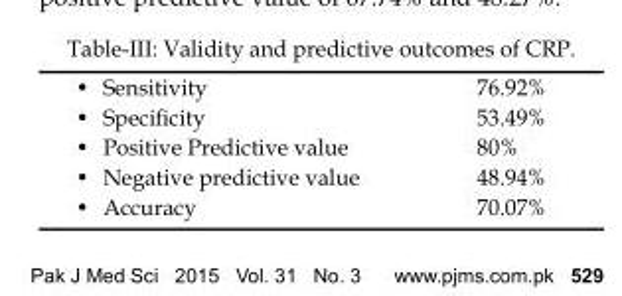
<table><tbody><tr><td>• Sensitivity</td><td>76.92%</td></tr><tr><td>• Specificity</td><td>53.49%</td></tr><tr><td>• Positive Predictive value</td><td>80%</td></tr><tr><td>• Negative predictive value</td><td>48.94%</td></tr><tr><td>• Accuracy</td><td>70.07%</td></tr></tbody></table>